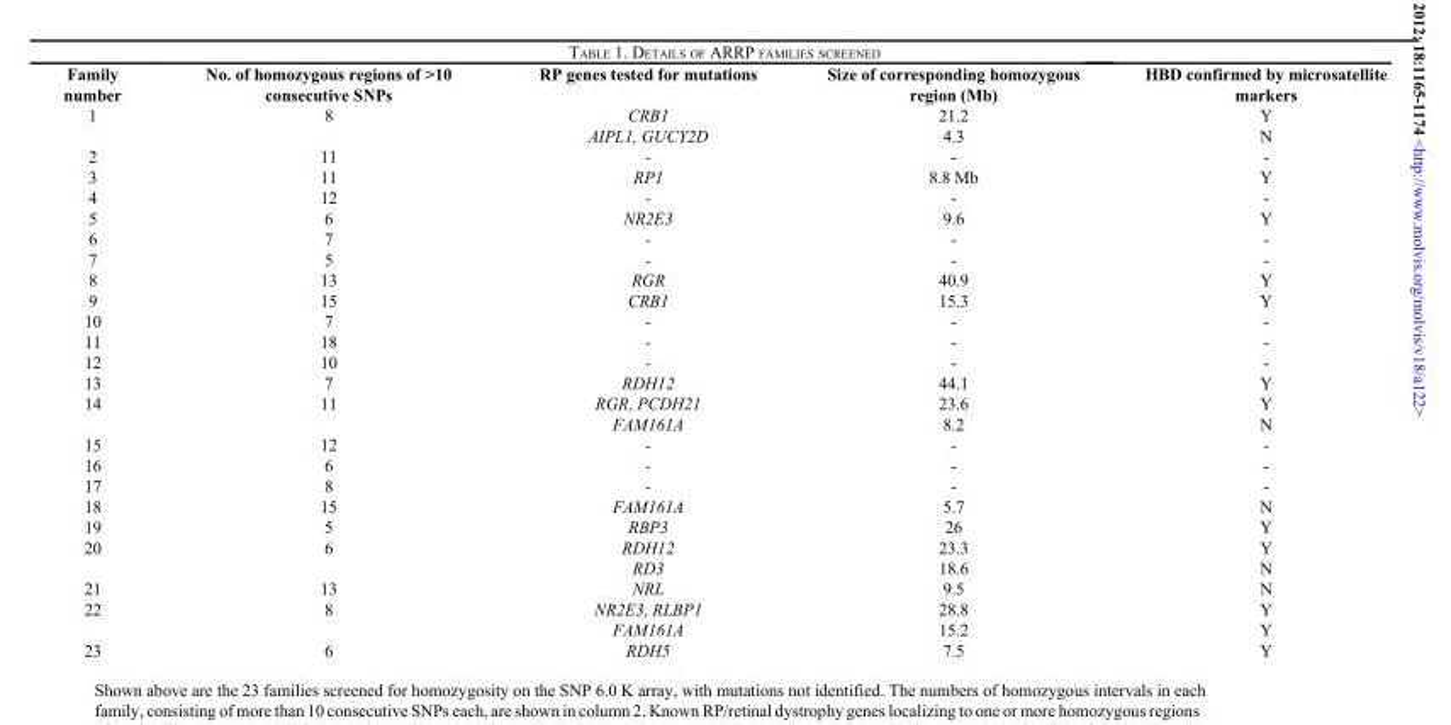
<table><thead><tr><td>Family number</td><td>No. of homozygous regions of &gt;10 consecutive SNPs</td><td>RP genes tested for mutations</td><td>Size of corresponding homozygous region (Mb)</td><td>HBD confirmed by microsatellite markers</td></tr></thead><tbody><tr><td rowspan="2">1</td><td>8</td><td>CRB1</td><td>21.2</td><td>Y</td></tr><tr><td></td><td>AIPL1, GUCY2D</td><td>4.3</td><td>N</td></tr><tr><td>2</td><td>11</td><td>-</td><td>-</td><td>-</td></tr><tr><td>3</td><td>11</td><td>RP1</td><td>8.8 Mb</td><td>Y</td></tr><tr><td>4</td><td>12</td><td>-</td><td>-</td><td>-</td></tr><tr><td>5</td><td>6</td><td>NR2E3</td><td>9.6</td><td>Y</td></tr><tr><td>6</td><td>7</td><td>-</td><td>-</td><td>-</td></tr><tr><td>7</td><td>5</td><td>-</td><td>-</td><td>-</td></tr><tr><td>8</td><td>13</td><td>RGR</td><td>40.9</td><td>Y</td></tr><tr><td>9</td><td>15</td><td>CRB1</td><td>15.3</td><td>Y</td></tr><tr><td>10</td><td>7</td><td>-</td><td>-</td><td>-</td></tr><tr><td>11</td><td>18</td><td>-</td><td>-</td><td>-</td></tr><tr><td>12</td><td>10</td><td>-</td><td>-</td><td>-</td></tr><tr><td>13</td><td>7</td><td>RDH12</td><td>44.1</td><td>Y</td></tr><tr><td rowspan="2">14</td><td>11</td><td>RGR, PCDH21</td><td>23.6</td><td>Y</td></tr><tr><td></td><td>FAM161A</td><td>8.2</td><td>N</td></tr><tr><td>15</td><td>12</td><td>-</td><td>-</td><td>-</td></tr><tr><td>16</td><td>6</td><td>-</td><td>-</td><td>-</td></tr><tr><td>17</td><td>8</td><td>-</td><td>-</td><td>-</td></tr><tr><td>18</td><td>15</td><td>FAM161A</td><td>5.7</td><td>N</td></tr><tr><td>19</td><td>5</td><td>RBP3</td><td>26</td><td>Y</td></tr><tr><td rowspan="2">20</td><td>6</td><td>RDH12</td><td>23.3</td><td>Y</td></tr><tr><td></td><td>RD3</td><td>18.6</td><td>N</td></tr><tr><td>21</td><td>13</td><td>NRL</td><td>9.5</td><td>N</td></tr><tr><td rowspan="2">22</td><td>8</td><td>NR2E3, RLBP1</td><td>28.8</td><td>Y</td></tr><tr><td></td><td>FAM161A</td><td>15.2</td><td>Y</td></tr><tr><td>23</td><td>6</td><td>RDH5</td><td>7.5</td><td>Y</td></tr></tbody></table>